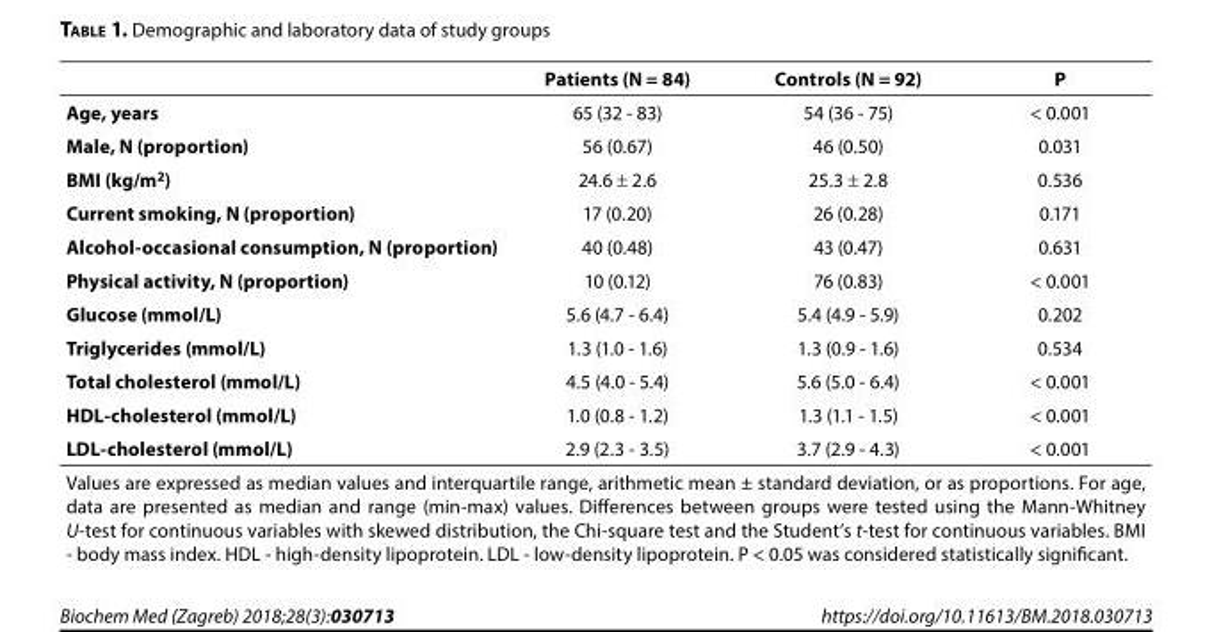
<table><thead><tr><td></td><td>Patients (N = 84)</td><td>Controls (N = 92)</td><td>P</td></tr></thead><tbody><tr><td>Age, years</td><td>65 (32 - 83)</td><td>54 (36 - 75)</td><td>&lt; 0.001</td></tr><tr><td>Male, N (proportion)</td><td>56 (0.67)</td><td>46 (0.50)</td><td>0.031</td></tr><tr><td>BMI (kg/m<sup>2</sup>)</td><td>24.6 ± 2.6</td><td>25.3 ± 2.8</td><td>0.536</td></tr><tr><td>Current smoking, N (proportion)</td><td>17 (0.20)</td><td>26 (0.28)</td><td>0.171</td></tr><tr><td>Alcohol-occasional consumption, N (proportion)</td><td>40 (0.48)</td><td>43 (0.47)</td><td>0.631</td></tr><tr><td>Physical activity, N (proportion)</td><td>10 (0.12)</td><td>76 (0.83)</td><td>&lt; 0.001</td></tr><tr><td>Glucose (mmol/L)</td><td>5.6 (4.7 - 6.4)</td><td>5.4 (4.9 - 5.9)</td><td>0.202</td></tr><tr><td>Triglycerides (mmol/L)</td><td>1.3 (1.0 - 1.6)</td><td>1.3 (0.9 - 1.6)</td><td>0.534</td></tr><tr><td>Total cholesterol (mmol/L)</td><td>4.5 (4.0 - 5.4)</td><td>5.6 (5.0 - 6.4)</td><td>&lt; 0.001</td></tr><tr><td>HDL-cholesterol (mmol/L)</td><td>1.0 (0.8 - 1.2)</td><td>1.3 (1.1 - 1.5)</td><td>&lt; 0.001</td></tr><tr><td>LDL-cholesterol (mmol/L)</td><td>2.9 (2.3 - 3.5)</td><td>3.7 (2.9 - 4.3)</td><td>&lt; 0.001</td></tr><tr><td colspan="4">Values are expressed as median values and interquartile range, arithmetic mean ± standard deviation, or as proportions. For age, data are presented as median and range (min-max) values. Differences between groups were tested using the Mann-Whitney U-test for continuous variables with skewed distribution, the Chi-square test and the Student’s t-test for continuous variables. BMI - body mass index. HDL - high-density lipoprotein. LDL - low-density lipoprotein. P &lt; 0.05 was considered statistically significant.</td></tr></tbody></table>